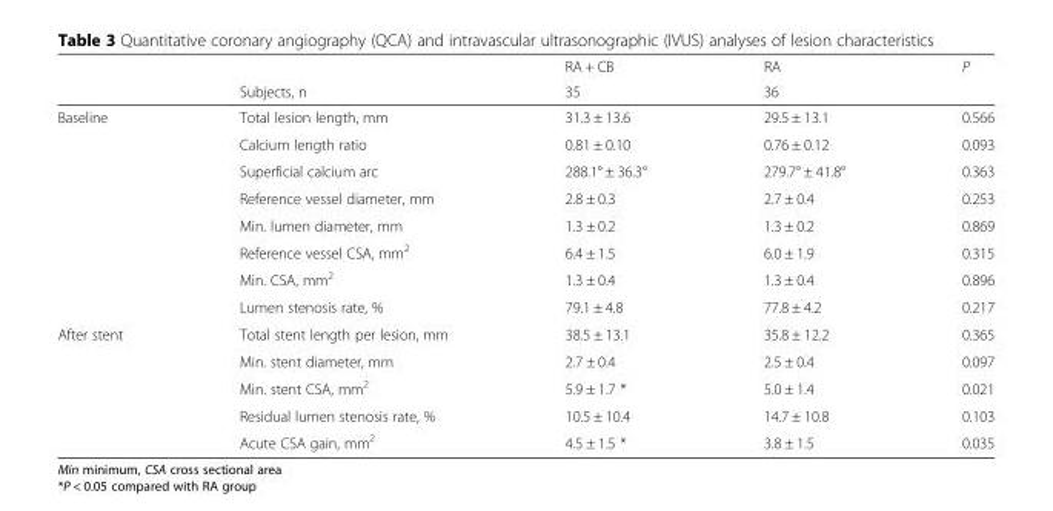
<table><thead><tr><td rowspan="2"></td><td rowspan="2">Subjects, n</td><td rowspan="2">RA + CB 35</td><td rowspan="2">RA 36</td><td rowspan="2">P</td></tr><tr></tr></thead><tbody><tr><td rowspan="8">Baseline</td><td>Total lesion length, mm</td><td>31.3 ± 13.6</td><td>29.5 ± 13.1</td><td>0.566</td></tr><tr><td>Calcium length ratio</td><td>0.81 ± 0.10</td><td>0.76 ± 0.12</td><td>0.093</td></tr><tr><td>Superficial calcium arc</td><td>288.1° ± 36.3°</td><td>279.7° ± 41.8°</td><td>0.363</td></tr><tr><td>Reference vessel diameter, mm</td><td>2.8 ± 0.3</td><td>2.7 ± 0.4</td><td>0.253</td></tr><tr><td>Min. lumen diameter, mm</td><td>1.3 ± 0.2</td><td>1.3 ± 0.2</td><td>0.869</td></tr><tr><td>Reference vessel CSA, mm<sup>2</sup></td><td>6.4 ± 1.5</td><td>6.0 ± 1.9</td><td>0.315</td></tr><tr><td>Min. CSA, mm<sup>2</sup></td><td>1.3 ± 0.4</td><td>1.3 ± 0.4</td><td>0.896</td></tr><tr><td>Lumen stenosis rate, %</td><td>79.1 ± 4.8</td><td>77.8 ± 4.2</td><td>0.217</td></tr><tr><td rowspan="5">After stent</td><td>Total stent length per lesion, mm</td><td>38.5 ± 13.1</td><td>35.8 ± 12.2</td><td>0.365</td></tr><tr><td>Min. stent diameter, mm</td><td>2.7 ± 0.4</td><td>2.5 ± 0.4</td><td>0.097</td></tr><tr><td>Min. stent CSA, mm<sup>2</sup></td><td>5.9 ± 1.7 *</td><td>5.0 ± 1.4</td><td>0.021</td></tr><tr><td>Residual lumen stenosis rate, %</td><td>10.5 ± 10.4</td><td>14.7 ± 10.8</td><td>0.103</td></tr><tr><td>Acute CSA gain, mm<sup>2</sup></td><td>4.5 ± 1.5 *</td><td>3.8 ± 1.5</td><td>0.035</td></tr></tbody></table>